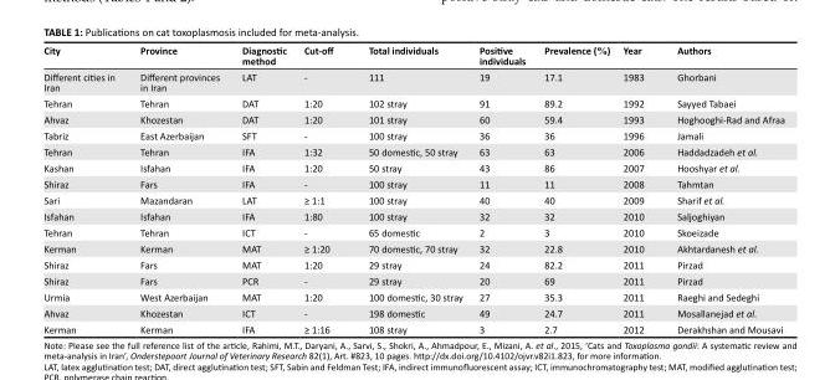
<table><thead><tr><td>City</td><td>Province</td><td>Diagnostic method</td><td>Cut-off</td><td>Total individuals</td><td>Positive individuals</td><td>Prevalence (%)</td><td>Year</td><td>Authors</td></tr></thead><tbody><tr><td>Different cities in Iran</td><td>Different provinces in Iran</td><td>LAT</td><td>-</td><td>111</td><td>19</td><td>17.1</td><td>1983</td><td>Ghorbani</td></tr><tr><td>Tehran</td><td>Tehran</td><td>DAT</td><td>1:20</td><td>102 stray</td><td>91</td><td>89.2</td><td>1992</td><td>Sayyed Tabaei</td></tr><tr><td>Ahvaz</td><td>Khozestan</td><td>DAT</td><td>1:20</td><td>101 stray</td><td>60</td><td>59.4</td><td>1993</td><td>Hoghooghi-Rad and Afraa</td></tr><tr><td>Tabriz</td><td>East Azerbaijan</td><td>SFT</td><td>-</td><td>100 stray</td><td>36</td><td>36</td><td>1996</td><td>Jamali</td></tr><tr><td>Tehran</td><td>Tehran</td><td>IFA</td><td>1:32</td><td>50 domestic, 50 stray</td><td>63</td><td>63</td><td>2006</td><td>Haddadzadeh et al.</td></tr><tr><td>Kashan</td><td>Isfahan</td><td>IFA</td><td>1:20</td><td>50 stray</td><td>43</td><td>86</td><td>2007</td><td>Hooshyar et al.</td></tr><tr><td>Shiraz</td><td>Fars</td><td>IFA</td><td>-</td><td>100 stray</td><td>11</td><td>11</td><td>2008</td><td>Tahmtan</td></tr><tr><td>Sari</td><td>Mazandaran</td><td>LAT</td><td>≥ 1:1</td><td>100 stray</td><td>40</td><td>40</td><td>2009</td><td>Sharif et al.</td></tr><tr><td>Isfahan</td><td>Isfahan</td><td>IFA</td><td>1:80</td><td>100 stray</td><td>32</td><td>32</td><td>2010</td><td>Saljoghiyan</td></tr><tr><td>Tehran</td><td>Tehran</td><td>ICT</td><td>-</td><td>65 domestic</td><td>2</td><td>3</td><td>2010</td><td>Skoeizade</td></tr><tr><td>Kerman</td><td>Kerman</td><td>MAT</td><td>≥ 1:20</td><td>70 domestic, 70 stray</td><td>32</td><td>22.8</td><td>2010</td><td>Akhtardanesh et al.</td></tr><tr><td>Shiraz</td><td>Fars</td><td>MAT</td><td>1:20</td><td>29 stray</td><td>24</td><td>82.2</td><td>2011</td><td>Pirzad</td></tr><tr><td>Shiraz</td><td>Fars</td><td>PCR</td><td>-</td><td>29 stray</td><td>20</td><td>69</td><td>2011</td><td>Pirzad</td></tr><tr><td>Urmia</td><td>West Azerbaijan</td><td>MAT</td><td>1:20</td><td>100 domestic, 30 stray</td><td>27</td><td>35.3</td><td>2011</td><td>Raeghi and Sedeghi</td></tr><tr><td>Ahvaz</td><td>Khozestan</td><td>ICT</td><td>-</td><td>198 domestic</td><td>49</td><td>24.7</td><td>2011</td><td>Mosallanejad et al.</td></tr><tr><td>Kerman</td><td>Kerman</td><td>IFA</td><td>≥ 1:16</td><td>108 stray</td><td>3</td><td>2.7</td><td>2012</td><td>Derakhshan and Mousavi</td></tr></tbody></table>